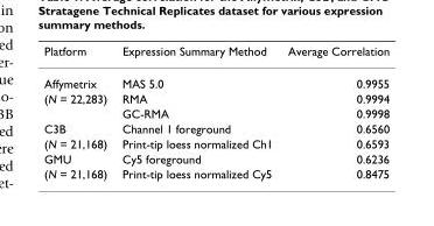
<table><thead><tr><td>Platform</td><td>Expression Summary Method</td><td>Average Correlation</td></tr></thead><tbody><tr><td>Affymetrix</td><td>MAS 5.0</td><td>0.9955</td></tr><tr><td rowspan="2">(N = 22,283)</td><td>RMA</td><td>0.9994</td></tr><tr><td>GC-RMA</td><td>0.9998</td></tr><tr><td>C3B</td><td>Channel 1 foreground</td><td>0.6560</td></tr><tr><td>(N = 21,168)</td><td>Print-tip loess normalized Ch1</td><td>0.6593</td></tr><tr><td>GMU</td><td>Cy5 foreground</td><td>0.6236</td></tr><tr><td>(N = 21,168)</td><td>Print-tip loess normalized Cy5</td><td>0.8475</td></tr></tbody></table>